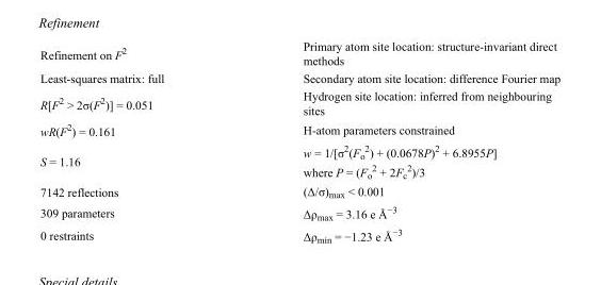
<table><tbody><tr><td>Refinement on F<sup>2</sup></td><td>Primary atom site location: structure-invariant direct methods</td></tr><tr><td>Least-squares matrix: full</td><td>Secondary atom site location: difference Fourier map</td></tr><tr><td>R[F<sup>2</sup> &gt; 2σ(F<sup>2</sup>)] = 0.051</td><td>Hydrogen site location: inferred from neighbouring sites</td></tr><tr><td>wR(F<sup>2</sup>) = 0.161</td><td>H-atom parameters constrained</td></tr><tr><td>S = 1.16</td><td>w = 1/[σ<sup>2</sup>(F<sub>o</sub> <sup>2</sup>) + (0.0678P)<sup>2</sup> + 6.8955P] where P = (F<sub>o</sub> <sup>2</sup> + 2F<sub>c</sub> <sup>2</sup>)/3</td></tr><tr><td>7142 reflections</td><td>(Δ/σ)<sub>max</sub> &lt; 0.001</td></tr><tr><td>309 parameters</td><td>Δρ<sub>max</sub> = 3.16 e Å<sup>−3</sup></td></tr><tr><td>0 restraints</td><td>Δρ<sub>min</sub> = −1.23 e Å<sup>−3</sup></td></tr></tbody></table>